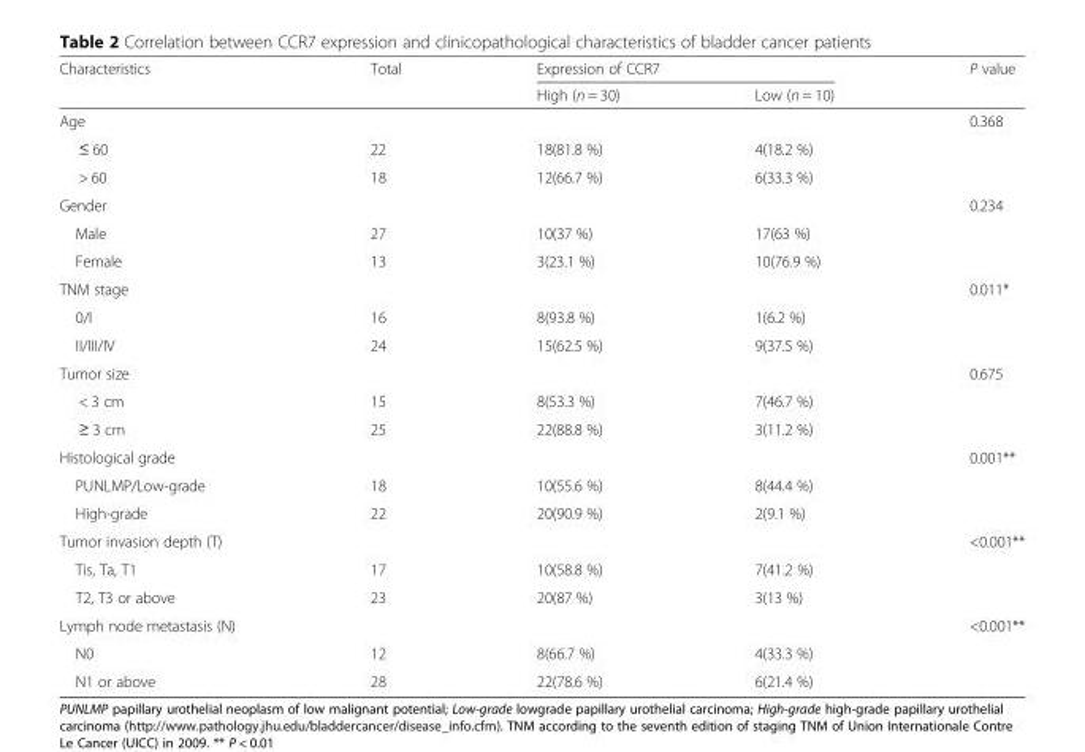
<table><thead><tr><td rowspan="2">Characteristics</td><td rowspan="2">Total</td><td colspan="2">Expression of CCR7</td><td rowspan="2">P value</td></tr><tr><td>High (n = 30)</td><td>Low (n = 10)</td></tr></thead><tbody><tr><td>Age</td><td></td><td></td><td></td><td>0.368</td></tr><tr><td>≤ 60</td><td>22</td><td>18(81.8 %)</td><td>4(18.2 %)</td><td></td></tr><tr><td>&gt; 60</td><td>18</td><td>12(66.7 %)</td><td>6(33.3 %)</td><td></td></tr><tr><td>Gender</td><td></td><td></td><td></td><td>0.234</td></tr><tr><td>Male</td><td>27</td><td>10(37 %)</td><td>17(63 %)</td><td></td></tr><tr><td>Female</td><td>13</td><td>3(23.1 %)</td><td>10(76.9 %)</td><td></td></tr><tr><td>TNM stage</td><td></td><td></td><td></td><td>0.011*</td></tr><tr><td>0/I</td><td>16</td><td>8(93.8 %)</td><td>1(6.2 %)</td><td></td></tr><tr><td>II/III/IV</td><td>24</td><td>15(62.5 %)</td><td>9(37.5 %)</td><td></td></tr><tr><td>Tumor size</td><td></td><td></td><td></td><td>0.675</td></tr><tr><td>&lt; 3 cm</td><td>15</td><td>8(53.3 %)</td><td>7(46.7 %)</td><td></td></tr><tr><td>≥ 3 cm</td><td>25</td><td>22(88.8 %)</td><td>3(11.2 %)</td><td></td></tr><tr><td>Histological grade</td><td></td><td></td><td></td><td>0.001**</td></tr><tr><td>PUNLMP/Low-grade</td><td>18</td><td>10(55.6 %)</td><td>8(44.4 %)</td><td></td></tr><tr><td>High-grade</td><td>22</td><td>20(90.9 %)</td><td>2(9.1 %)</td><td></td></tr><tr><td>Tumor invasion depth (T)</td><td></td><td></td><td></td><td>&lt;0.001**</td></tr><tr><td>Tis, Ta, T1</td><td>17</td><td>10(58.8 %)</td><td>7(41.2 %)</td><td></td></tr><tr><td>T2, T3 or above</td><td>23</td><td>20(87 %)</td><td>3(13 %)</td><td></td></tr><tr><td>Lymph node metastasis (N)</td><td></td><td></td><td></td><td>&lt;0.001**</td></tr><tr><td>N0</td><td>12</td><td>8(66.7 %)</td><td>4(33.3 %)</td><td></td></tr><tr><td>N1 or above</td><td>28</td><td>22(78.6 %)</td><td>6(21.4 %)</td><td></td></tr></tbody></table>